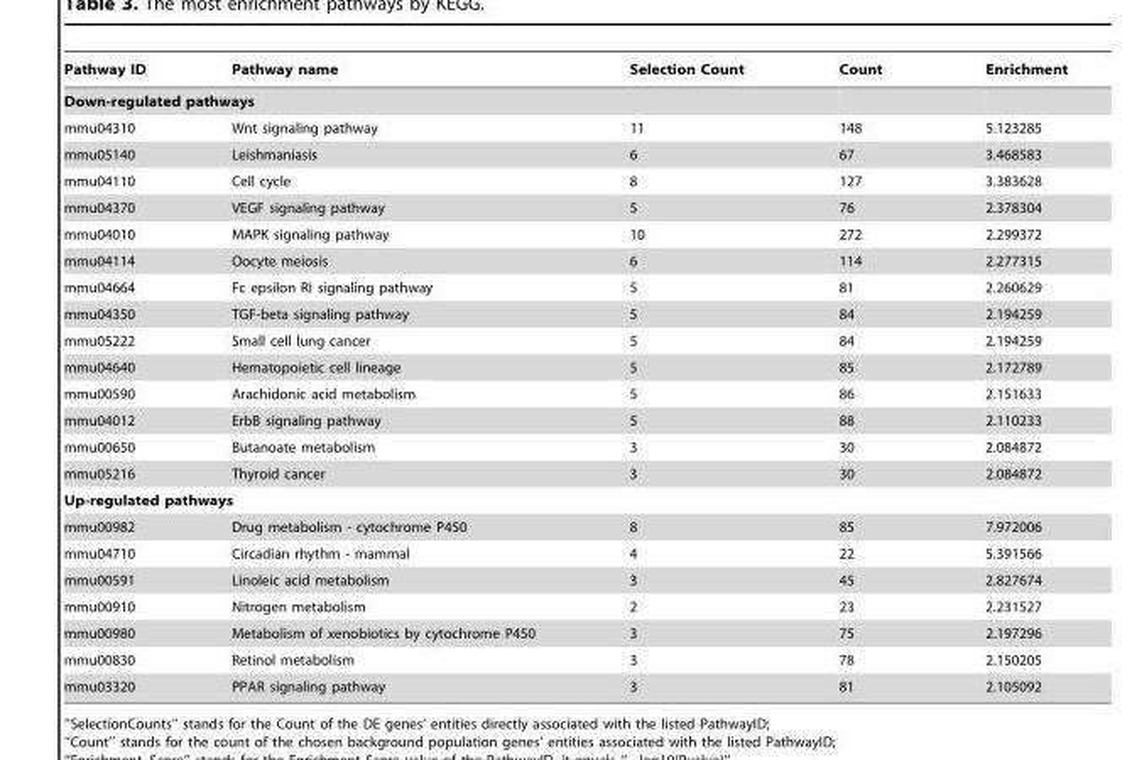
<table><thead><tr><td>Pathway ID</td><td>Pathway name</td><td>Selection Count</td><td>Count</td><td>Enrichment</td></tr></thead><tbody><tr><td colspan="5">Down-regulated pathways</td></tr><tr><td>mmu04310</td><td>Wnt signaling pathway</td><td>11</td><td>148</td><td>5.123285</td></tr><tr><td>mmu05140</td><td>Leishmaniasis</td><td>6</td><td>67</td><td>3.468583</td></tr><tr><td>mmu04110</td><td>Cell cycle</td><td>8</td><td>127</td><td>3.383628</td></tr><tr><td>mmu04370</td><td>VEGF signaling pathway</td><td>5</td><td>76</td><td>2.378304</td></tr><tr><td>mmu04010</td><td>MAPK signaling pathway</td><td>10</td><td>272</td><td>2.299372</td></tr><tr><td>mmu04114</td><td>Oocyte meiosis</td><td>6</td><td>114</td><td>2.277315</td></tr><tr><td>mmu04664</td><td>Fc epsilon RI signaling pathway</td><td>5</td><td>81</td><td>2.260629</td></tr><tr><td>mmu04350</td><td>TGF-beta signaling pathway</td><td>5</td><td>84</td><td>2.194259</td></tr><tr><td>mmu05222</td><td>Small cell lung cancer</td><td>5</td><td>84</td><td>2.194259</td></tr><tr><td>mmu04640</td><td>Hematopoietic cell lineage</td><td>5</td><td>85</td><td>2.172789</td></tr><tr><td>mmu00590</td><td>Arachidonic acid metabolism</td><td>5</td><td>86</td><td>2.151633</td></tr><tr><td>mmu04012</td><td>ErbB signaling pathway</td><td>5</td><td>88</td><td>2.110233</td></tr><tr><td>mmu00650</td><td>Butanoate metabolism</td><td>3</td><td>30</td><td>2.084872</td></tr><tr><td>mmu05216</td><td>Thyroid cancer</td><td>3</td><td>30</td><td>2.084872</td></tr><tr><td colspan="5">Up-regulated pathways</td></tr><tr><td>mmu00982</td><td>Drug metabolism - cytochrome P450</td><td>8</td><td>85</td><td>7.972006</td></tr><tr><td>mmu04710</td><td>Circadian rhythm - mammal</td><td>4</td><td>22</td><td>5.391566</td></tr><tr><td>mmu00591</td><td>Linoleic acid metabolism</td><td>3</td><td>45</td><td>2.827674</td></tr><tr><td>mmu00910</td><td>Nitrogen metabolism</td><td>2</td><td>23</td><td>2.231527</td></tr><tr><td>mmu00980</td><td>Metabolism of xenobiotics by cytochrome P450</td><td>3</td><td>75</td><td>2.197296</td></tr><tr><td>mmu00830</td><td>Retinol metabolism</td><td>3</td><td>78</td><td>2.150205</td></tr><tr><td>mmu03320</td><td>PPAR signaling pathway</td><td>3</td><td>81</td><td>2.105092</td></tr></tbody></table>